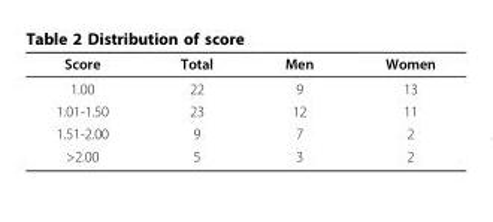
<table><thead><tr><td>Score</td><td>Total</td><td>Men</td><td>Women</td></tr></thead><tbody><tr><td>1.00</td><td>22</td><td>9</td><td>13</td></tr><tr><td>1.01-1.50</td><td>23</td><td>12</td><td>11</td></tr><tr><td>1.51-2.00</td><td>9</td><td>7</td><td>2</td></tr><tr><td>&gt;2.00</td><td>5</td><td>3</td><td>2</td></tr></tbody></table>